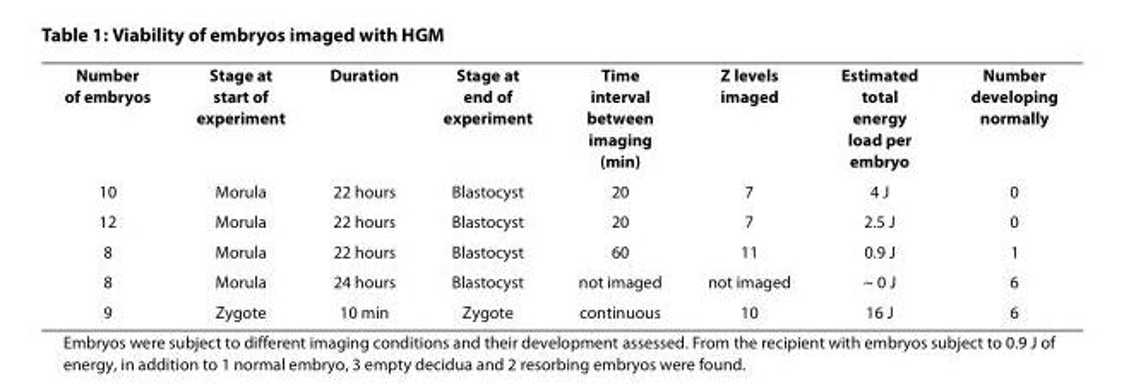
<table><tbody><tr><td>Number of embryos</td><td>Stage at start of experiment</td><td>Duration</td><td>Stage at end of experiment</td><td>Time interval between imaging (min)</td><td>Z levels imaged</td><td>Estimated total energy load per embryo</td><td>Number developing normally</td></tr><tr><td>10</td><td>Morula</td><td>22 hours</td><td>Blastocyst</td><td>20</td><td>7</td><td>4 J</td><td>0</td></tr><tr><td>12</td><td>Morula</td><td>22 hours</td><td>Blastocyst</td><td>20</td><td>7</td><td>2.5 J</td><td>0</td></tr><tr><td>8</td><td>Morula</td><td>22 hours</td><td>Blastocyst</td><td>60</td><td>11</td><td>0.9 J</td><td>1</td></tr><tr><td>8</td><td>Morula</td><td>24 hours</td><td>Blastocyst</td><td>not imaged</td><td>not imaged</td><td>~ 0 J</td><td>6</td></tr><tr><td>9</td><td>Zygote</td><td>10 min</td><td>Zygote</td><td>continuous</td><td>10</td><td>16 J</td><td>6</td></tr></tbody></table>